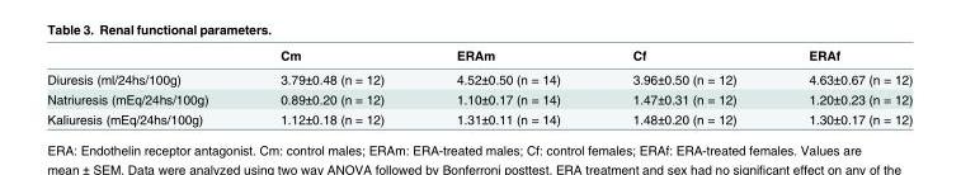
<table><thead><tr><td></td><td>Cm</td><td>ERAm</td><td>Cf</td><td>ERAf</td></tr></thead><tbody><tr><td>Diuresis (ml/24hs/100g)</td><td>3.79±0.48 (n = 12)</td><td>4.52±0.50 (n = 14)</td><td>3.96±0.50 (n = 12)</td><td>4.63±0.67 (n = 12)</td></tr><tr><td>Natriuresis (mEq/24hs/100g)</td><td>0.89±0.20 (n = 12)</td><td>1.10±0.17 (n = 14)</td><td>1.47±0.31 (n = 12)</td><td>1.20±0.23 (n = 12)</td></tr><tr><td>Kaliuresis (mEq/24hs/100g)</td><td>1.12±0.18 (n = 12)</td><td>1.31±0.11 (n = 14)</td><td>1.48±0.20 (n = 12)</td><td>1.30±0.17 (n = 12)</td></tr></tbody></table>